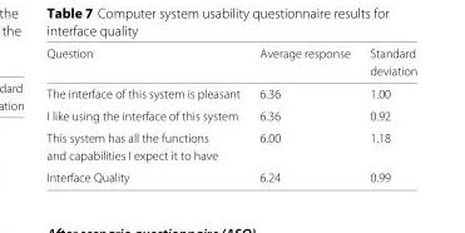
<table><thead><tr><td rowspan="2">Question</td><td rowspan="2">Average response</td><td rowspan="2">Standard deviation</td></tr><tr></tr></thead><tbody><tr><td>The interface of this system is pleasant</td><td>6.36</td><td>1.00</td></tr><tr><td>I like using the interface of this system</td><td>6.36</td><td>0.92</td></tr><tr><td>This system has all the functions</td><td>6.00</td><td>1.18</td></tr><tr><td colspan="3">and capabilities I expect it to have</td></tr><tr><td>Interface Quality</td><td>6.24</td><td>0.99</td></tr></tbody></table>